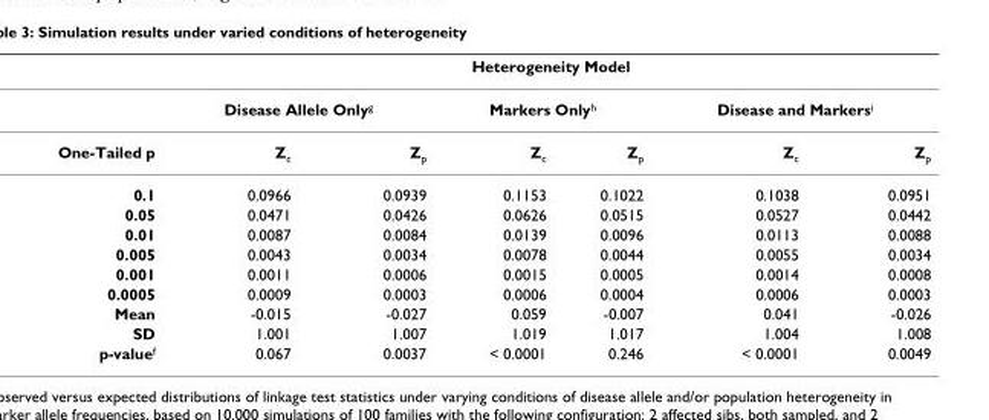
<table><thead><tr><td rowspan="3">One-Tailed p</td><td colspan="6">Heterogeneity Model</td></tr><tr><td colspan="2">Disease Allele Only<sup>g</sup></td><td colspan="2">Markers Only<sup>h</sup></td><td colspan="2">Disease and Markers<sup>i</sup></td></tr><tr><td>Z<sub>c</sub></td><td>Z<sub>p</sub></td><td>Z<sub>c</sub></td><td>Z<sub>p</sub></td><td>Z<sub>c</sub></td><td>Z<sub>p</sub></td></tr></thead><tbody><tr><td>0.1</td><td>0.0966</td><td>0.0939</td><td>0.1153</td><td>0.1022</td><td>0.1038</td><td>0.0951</td></tr><tr><td>0.05</td><td>0.0471</td><td>0.0426</td><td>0.0626</td><td>0.0515</td><td>0.0527</td><td>0.0442</td></tr><tr><td>0.01</td><td>0.0087</td><td>0.0084</td><td>0.0139</td><td>0.0096</td><td>0.0113</td><td>0.0088</td></tr><tr><td>0.005</td><td>0.0043</td><td>0.0034</td><td>0.0078</td><td>0.0044</td><td>0.0055</td><td>0.0034</td></tr><tr><td>0.001</td><td>0.0011</td><td>0.0006</td><td>0.0015</td><td>0.0005</td><td>0.0014</td><td>0.0008</td></tr><tr><td>0.0005</td><td>0.0009</td><td>0.0003</td><td>0.0006</td><td>0.0004</td><td>0.0006</td><td>0.0003</td></tr><tr><td>Mean</td><td>-0.015</td><td>-0.027</td><td>0.059</td><td>-0.007</td><td>0.041</td><td>-0.026</td></tr><tr><td>SD</td><td>1.001</td><td>1.007</td><td>1.019</td><td>1.017</td><td>1.004</td><td>1.008</td></tr><tr><td>p-value<sup>f</sup></td><td>0.067</td><td>0.0037</td><td>&lt; 0.0001</td><td>0.246</td><td>&lt; 0.0001</td><td>0.0049</td></tr></tbody></table>